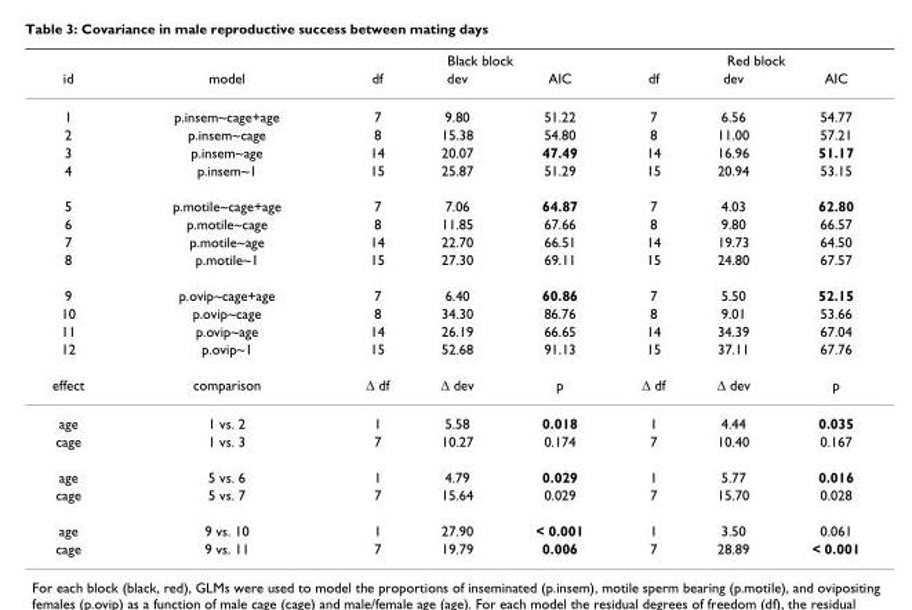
<table><thead><tr><td rowspan="2">id</td><td rowspan="2">model</td><td colspan="3">Black block</td><td colspan="3">Red block</td></tr><tr><td>df</td><td>dev</td><td>AIC</td><td>df</td><td>dev</td><td>AIC</td></tr></thead><tbody><tr><td>1</td><td>p.insem~cage+age</td><td>7</td><td>9.80</td><td>51.22</td><td>7</td><td>6.56</td><td>54.77</td></tr><tr><td>2</td><td>p.insem~cage</td><td>8</td><td>15.38</td><td>54.80</td><td>8</td><td>11.00</td><td>57.21</td></tr><tr><td>3</td><td>p.insem~age</td><td>14</td><td>20.07</td><td>47.49</td><td>14</td><td>16.96</td><td>51.17</td></tr><tr><td>4</td><td>p.insem~1</td><td>15</td><td>25.87</td><td>51.29</td><td>15</td><td>20.94</td><td>53.15</td></tr><tr><td>5</td><td>p.motile~cage+age</td><td>7</td><td>7.06</td><td>64.87</td><td>7</td><td>4.03</td><td>62.80</td></tr><tr><td>6</td><td>p.motile~cage</td><td>8</td><td>11.85</td><td>67.66</td><td>8</td><td>9.80</td><td>66.57</td></tr><tr><td>7</td><td>p.motile~age</td><td>14</td><td>22.70</td><td>66.51</td><td>14</td><td>19.73</td><td>64.50</td></tr><tr><td>8</td><td>p.motile~1</td><td>15</td><td>27.30</td><td>69.11</td><td>15</td><td>24.80</td><td>67.57</td></tr><tr><td>9</td><td>p.ovip~cage+age</td><td>7</td><td>6.40</td><td>60.86</td><td>7</td><td>5.50</td><td>52.15</td></tr><tr><td>10</td><td>p.ovip~cage</td><td>8</td><td>34.30</td><td>86.76</td><td>8</td><td>9.01</td><td>53.66</td></tr><tr><td>11</td><td>p.ovip~age</td><td>14</td><td>26.19</td><td>66.65</td><td>14</td><td>34.39</td><td>67.04</td></tr><tr><td>12</td><td>p.ovip~1</td><td>15</td><td>52.68</td><td>91.13</td><td>15</td><td>37.11</td><td>67.76</td></tr><tr><td>effect</td><td>comparison</td><td>Δ df</td><td>Δ dev</td><td>p</td><td>Δ df</td><td>Δ dev</td><td>p</td></tr><tr><td>age</td><td>1 vs. 2</td><td>1</td><td>5.58</td><td>0.018</td><td>1</td><td>4.44</td><td>0.035</td></tr><tr><td>cage</td><td>1 vs. 3</td><td>7</td><td>10.27</td><td>0.174</td><td>7</td><td>10.40</td><td>0.167</td></tr><tr><td>age</td><td>5 vs. 6</td><td>1</td><td>4.79</td><td>0.029</td><td>1</td><td>5.77</td><td>0.016</td></tr><tr><td>cage</td><td>5 vs. 7</td><td>7</td><td>15.64</td><td>0.029</td><td>7</td><td>15.70</td><td>0.028</td></tr><tr><td>age</td><td>9 vs. 10</td><td>1</td><td>27.90</td><td>&lt; 0.001</td><td>1</td><td>3.50</td><td>0.061</td></tr><tr><td>cage</td><td>9 vs. 11</td><td>7</td><td>19.79</td><td>0.006</td><td>7</td><td>28.89</td><td>&lt; 0.001</td></tr></tbody></table>